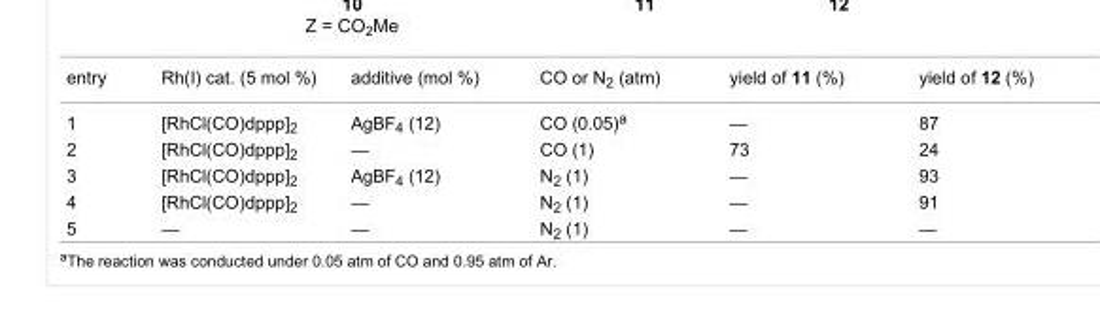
<table><tbody><tr><td>entry</td><td>Rh(I) cat. (5 mol %)</td><td>additive (mol %)</td><td>CO or N<sub>2</sub> (atm)</td><td>yield of 11 (%)</td><td>yield of 12 (%)</td></tr><tr><td>1</td><td>[RhCl(CO)dppp]<sub>2</sub></td><td>AgBF<sub>4</sub> (12)</td><td>CO (0.05)<sup>a</sup></td><td>—</td><td>87</td></tr><tr><td>2</td><td>[RhCl(CO)dppp]<sub>2</sub></td><td>—</td><td>CO (1)</td><td>73</td><td>24</td></tr><tr><td>3</td><td>[RhCl(CO)dppp]<sub>2</sub></td><td>AgBF<sub>4</sub> (12)</td><td>N<sub>2</sub> (1)</td><td>—</td><td>93</td></tr><tr><td>4</td><td>[RhCl(CO)dppp]<sub>2</sub></td><td>—</td><td>N<sub>2</sub> (1)</td><td>—</td><td>91</td></tr><tr><td>5</td><td>—</td><td>—</td><td>N<sub>2</sub> (1)</td><td>—</td><td>—</td></tr></tbody></table>